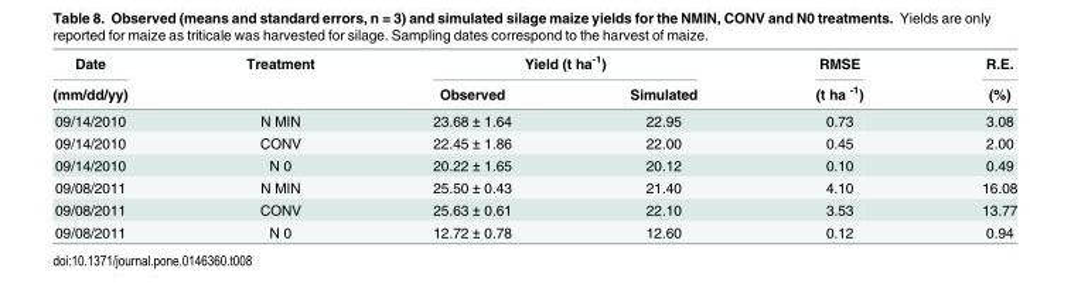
<table><thead><tr><td rowspan="2">Date (mm/dd/yy)</td><td rowspan="2">Treatment</td><td colspan="2">Yield (t ha<sup>-1</sup>)</td><td rowspan="2">RMSE (t ha <sup>-1</sup>)</td><td rowspan="2">R.E. (%)</td></tr><tr><td>Observed</td><td>Simulated</td></tr></thead><tbody><tr><td>09/14/2010</td><td>N MIN</td><td>23.68 ± 1.64</td><td>22.95</td><td>0.73</td><td>3.08</td></tr><tr><td>09/14/2010</td><td>CONV</td><td>22.45 ± 1.86</td><td>22.00</td><td>0.45</td><td>2.00</td></tr><tr><td>09/14/2010</td><td>N 0</td><td>20.22 ± 1.65</td><td>20.12</td><td>0.10</td><td>0.49</td></tr><tr><td>09/08/2011</td><td>N MIN</td><td>25.50 ± 0.43</td><td>21.40</td><td>4.10</td><td>16.08</td></tr><tr><td>09/08/2011</td><td>CONV</td><td>25.63 ± 0.61</td><td>22.10</td><td>3.53</td><td>13.77</td></tr><tr><td>09/08/2011</td><td>N 0</td><td>12.72 ± 0.78</td><td>12.60</td><td>0.12</td><td>0.94</td></tr></tbody></table>